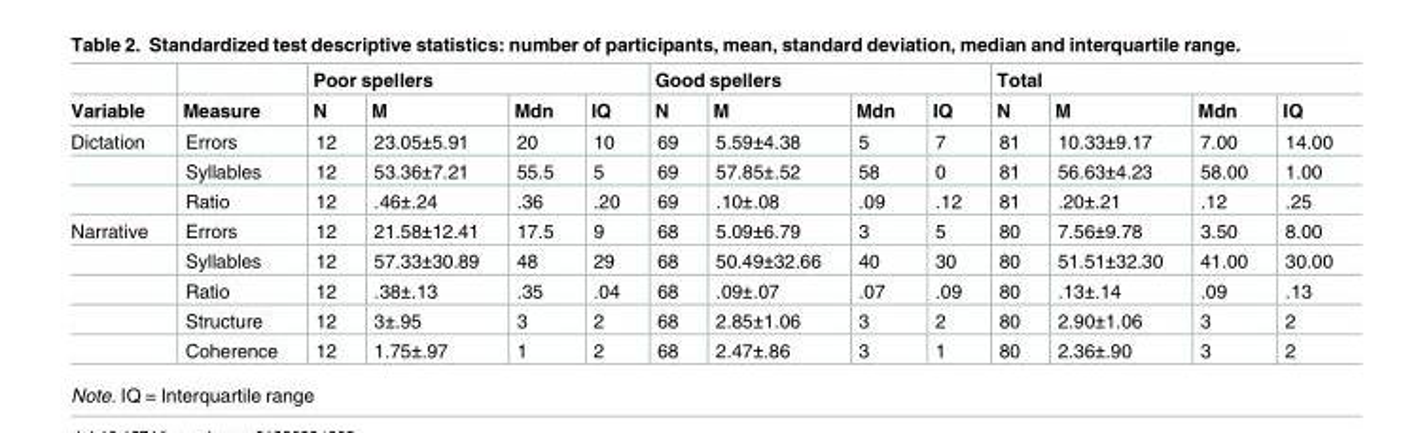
<table><thead><tr><td rowspan="2">Variable</td><td rowspan="2">Measure</td><td colspan="4">Poor spellers</td><td colspan="4">Good spellers</td><td colspan="4">Total</td></tr><tr><td>N</td><td>M</td><td>Mdn</td><td>IQ</td><td>N</td><td>M</td><td>Mdn</td><td>IQ</td><td>N</td><td>M</td><td>Mdn</td><td>IQ</td></tr></thead><tbody><tr><td rowspan="3">Dictation</td><td>Errors</td><td>12</td><td>23.05±5.91</td><td>20</td><td>10</td><td>69</td><td>5.59±4.38</td><td>5</td><td>7</td><td>81</td><td>10.33±9.17</td><td>7.00</td><td>14.00</td></tr><tr><td>Syllables</td><td>12</td><td>53.36±7.21</td><td>55.5</td><td>5</td><td>69</td><td>57.85±.52</td><td>58</td><td>0</td><td>81</td><td>56.63±4.23</td><td>58.00</td><td>1.00</td></tr><tr><td>Ratio</td><td>12</td><td>.46±.24</td><td>.36</td><td>.20</td><td>69</td><td>.10±.08</td><td>.09</td><td>.12</td><td>81</td><td>.20±.21</td><td>.12</td><td>.25</td></tr><tr><td rowspan="5">Narrative</td><td>Errors</td><td>12</td><td>21.58±12.41</td><td>17.5</td><td>9</td><td>68</td><td>5.09±6.79</td><td>3</td><td>5</td><td>80</td><td>7.56±9.78</td><td>3.50</td><td>8.00</td></tr><tr><td>Syllables</td><td>12</td><td>57.33±30.89</td><td>48</td><td>29</td><td>68</td><td>50.49±32.66</td><td>40</td><td>30</td><td>80</td><td>51.51±32.30</td><td>41.00</td><td>30.00</td></tr><tr><td>Ratio</td><td>12</td><td>.38±.13</td><td>.35</td><td>.04</td><td>68</td><td>.09±.07</td><td>.07</td><td>.09</td><td>80</td><td>.13±.14</td><td>.09</td><td>.13</td></tr><tr><td>Structure</td><td>12</td><td>3±.95</td><td>3</td><td>2</td><td>68</td><td>2.85±1.06</td><td>3</td><td>2</td><td>80</td><td>2.90±1.06</td><td>3</td><td>2</td></tr><tr><td>Coherence</td><td>12</td><td>1.75±.97</td><td>1</td><td>2</td><td>68</td><td>2.47±.86</td><td>3</td><td>1</td><td>80</td><td>2.36±.90</td><td>3</td><td>2</td></tr></tbody></table>